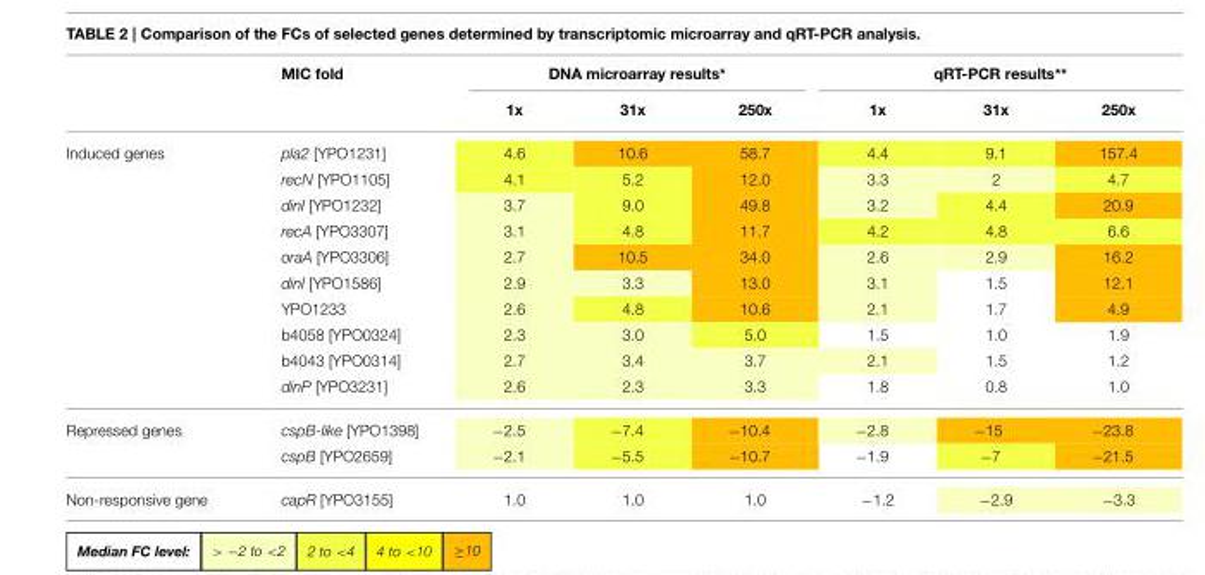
<table><thead><tr><td rowspan="2"></td><td rowspan="2">MIC fold</td><td colspan="3">DNA microarray results*</td><td colspan="3">qRT-PCR results**</td></tr><tr><td>1x</td><td>31x</td><td>250x</td><td>1x</td><td>31x</td><td>250x</td></tr></thead><tbody><tr><td rowspan="10">Induced genes</td><td>pla2 [YPO1231]</td><td>4.6</td><td>10.6</td><td>58.7</td><td>4.4</td><td>9.1</td><td>157.4</td></tr><tr><td>recN [YPO1105]</td><td>4.1</td><td>5.2</td><td>12.0</td><td>3.3</td><td>2</td><td>4.7</td></tr><tr><td>dinI [YPO1232]</td><td>3.7</td><td>9.0</td><td>49.8</td><td>3.2</td><td>4.4</td><td>20.9</td></tr><tr><td>recA [YPO3307]</td><td>3.1</td><td>4.8</td><td>11.7</td><td>4.2</td><td>4.8</td><td>6.6</td></tr><tr><td>oraA [YPO3306]</td><td>2.7</td><td>10.5</td><td>34.0</td><td>2.6</td><td>2.9</td><td>16.2</td></tr><tr><td>dinI [YPO1586]</td><td>2.9</td><td>3.3</td><td>13.0</td><td>3.1</td><td>1.5</td><td>12.1</td></tr><tr><td>YPO1233</td><td>2.6</td><td>4.8</td><td>10.6</td><td>2.1</td><td>1.7</td><td>4.9</td></tr><tr><td>b4058 [YPO0324]</td><td>2.3</td><td>3.0</td><td>5.0</td><td>1.5</td><td>1.0</td><td>1.9</td></tr><tr><td>b4043 [YPO0314]</td><td>2.7</td><td>3.4</td><td>3.7</td><td>2.1</td><td>1.5</td><td>1.2</td></tr><tr><td>dinP [YPO3231]</td><td>2.6</td><td>2.3</td><td>3.3</td><td>1.8</td><td>0.8</td><td>1.0</td></tr><tr><td rowspan="2">Repressed genes</td><td>cspB-like [YPO1398]</td><td>−2.5</td><td>−7.4</td><td>−10.4</td><td>−2.8</td><td>−15</td><td>−23.8</td></tr><tr><td>cspB [YPO2659]</td><td>−2.1</td><td>−5.5</td><td>−10.7</td><td>−1.9</td><td>−7</td><td>−21.5</td></tr><tr><td>Non-responsive gene</td><td>capR [YPO3155]</td><td>1.0</td><td>1.0</td><td>1.0</td><td>−1.2</td><td>−2.9</td><td>−3.3</td></tr></tbody></table>